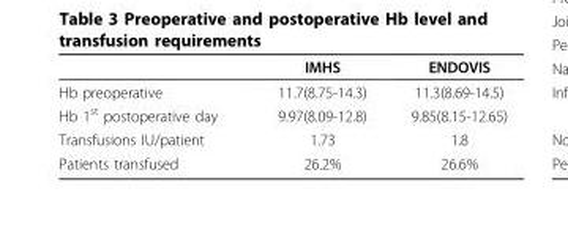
<table><thead><tr><td></td><td>IMHS</td><td>ENDOVIS</td></tr></thead><tbody><tr><td>Hb preoperative</td><td>11.7(8.75-14.3)</td><td>11.3(8.69-14.5)</td></tr><tr><td>Hb 1<sup>st</sup> postoperative day</td><td>9.97(8.09-12.8)</td><td>9.85(8.15-12.65)</td></tr><tr><td>Transfusions IU/patient</td><td>1.73</td><td>1.8</td></tr><tr><td>Patients transfused</td><td>26.2%</td><td>26.6%</td></tr></tbody></table>